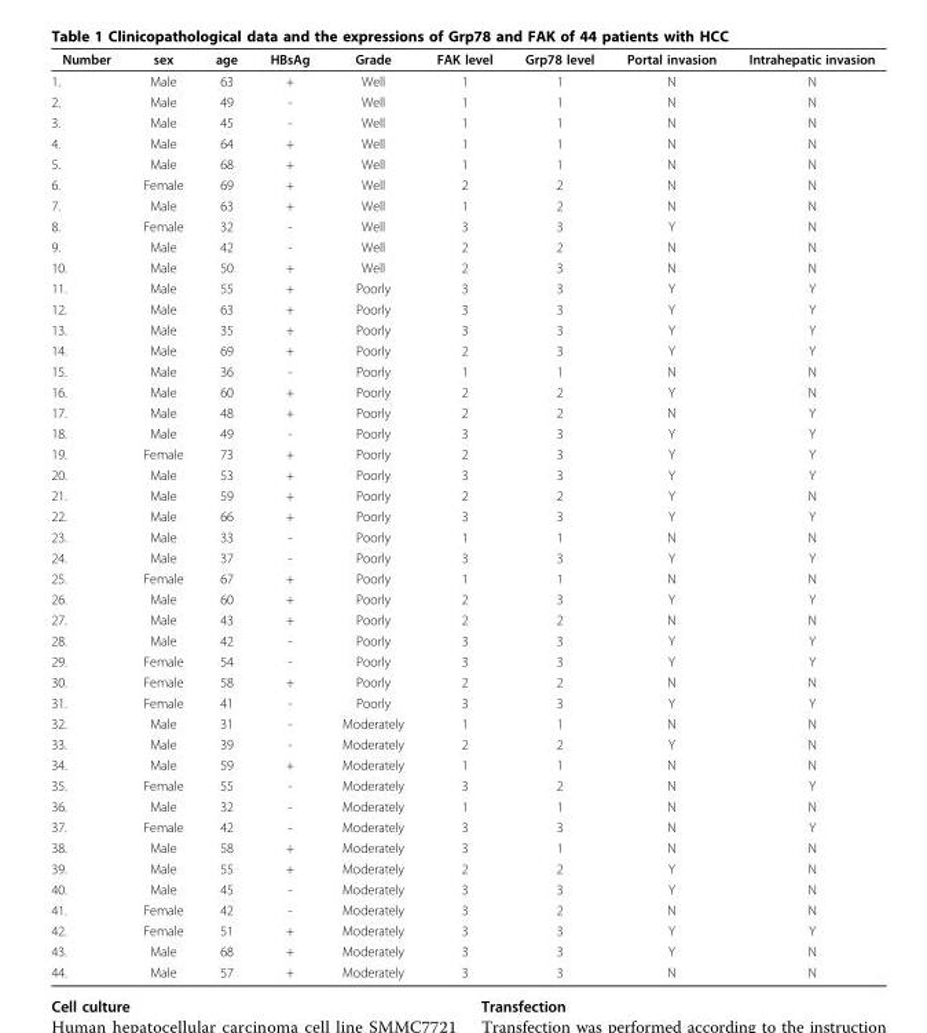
<table><thead><tr><td>Number</td><td>sex</td><td>age</td><td>HBsAg</td><td>Grade</td><td>FAK level</td><td>Grp78 level</td><td>Portal invasion</td><td>Intrahepatic invasion</td></tr></thead><tbody><tr><td>1.</td><td>Male</td><td>63</td><td>+</td><td>Well</td><td>1</td><td>1</td><td>N</td><td>N</td></tr><tr><td>2.</td><td>Male</td><td>49</td><td>-</td><td>Well</td><td>1</td><td>1</td><td>N</td><td>N</td></tr><tr><td>3.</td><td>Male</td><td>45</td><td>-</td><td>Well</td><td>1</td><td>1</td><td>N</td><td>N</td></tr><tr><td>4.</td><td>Male</td><td>64</td><td>+</td><td>Well</td><td>1</td><td>1</td><td>N</td><td>N</td></tr><tr><td>5.</td><td>Male</td><td>68</td><td>+</td><td>Well</td><td>1</td><td>1</td><td>N</td><td>N</td></tr><tr><td>6.</td><td>Female</td><td>69</td><td>+</td><td>Well</td><td>2</td><td>2</td><td>N</td><td>N</td></tr><tr><td>7.</td><td>Male</td><td>63</td><td>+</td><td>Well</td><td>1</td><td>2</td><td>N</td><td>N</td></tr><tr><td>8.</td><td>Female</td><td>32</td><td>-</td><td>Well</td><td>3</td><td>3</td><td>Y</td><td>N</td></tr><tr><td>9.</td><td>Male</td><td>42</td><td>-</td><td>Well</td><td>2</td><td>2</td><td>N</td><td>N</td></tr><tr><td>10.</td><td>Male</td><td>50</td><td>+</td><td>Well</td><td>2</td><td>3</td><td>N</td><td>N</td></tr><tr><td>11.</td><td>Male</td><td>55</td><td>+</td><td>Poorly</td><td>3</td><td>3</td><td>Y</td><td>Y</td></tr><tr><td>12.</td><td>Male</td><td>63</td><td>+</td><td>Poorly</td><td>3</td><td>3</td><td>Y</td><td>Y</td></tr><tr><td>13.</td><td>Male</td><td>35</td><td>+</td><td>Poorly</td><td>3</td><td>3</td><td>Y</td><td>Y</td></tr><tr><td>14.</td><td>Male</td><td>69</td><td>+</td><td>Poorly</td><td>2</td><td>3</td><td>Y</td><td>Y</td></tr><tr><td>15.</td><td>Male</td><td>36</td><td>-</td><td>Poorly</td><td>1</td><td>1</td><td>N</td><td>N</td></tr><tr><td>16.</td><td>Male</td><td>60</td><td>+</td><td>Poorly</td><td>2</td><td>2</td><td>Y</td><td>N</td></tr><tr><td>17.</td><td>Male</td><td>48</td><td>+</td><td>Poorly</td><td>2</td><td>2</td><td>N</td><td>Y</td></tr><tr><td>18.</td><td>Male</td><td>49</td><td>-</td><td>Poorly</td><td>3</td><td>3</td><td>Y</td><td>Y</td></tr><tr><td>19.</td><td>Female</td><td>73</td><td>+</td><td>Poorly</td><td>2</td><td>3</td><td>Y</td><td>Y</td></tr><tr><td>20.</td><td>Male</td><td>53</td><td>+</td><td>Poorly</td><td>3</td><td>3</td><td>Y</td><td>Y</td></tr><tr><td>21.</td><td>Male</td><td>59</td><td>+</td><td>Poorly</td><td>2</td><td>2</td><td>Y</td><td>N</td></tr><tr><td>22.</td><td>Male</td><td>66</td><td>+</td><td>Poorly</td><td>3</td><td>3</td><td>Y</td><td>Y</td></tr><tr><td>23.</td><td>Male</td><td>33</td><td>-</td><td>Poorly</td><td>1</td><td>1</td><td>N</td><td>N</td></tr><tr><td>24.</td><td>Male</td><td>37</td><td>-</td><td>Poorly</td><td>3</td><td>3</td><td>Y</td><td>Y</td></tr><tr><td>25.</td><td>Female</td><td>67</td><td>+</td><td>Poorly</td><td>1</td><td>1</td><td>N</td><td>N</td></tr><tr><td>26.</td><td>Male</td><td>60</td><td>+</td><td>Poorly</td><td>2</td><td>3</td><td>Y</td><td>Y</td></tr><tr><td>27.</td><td>Male</td><td>43</td><td>+</td><td>Poorly</td><td>2</td><td>2</td><td>N</td><td>N</td></tr><tr><td>28.</td><td>Male</td><td>42</td><td>-</td><td>Poorly</td><td>3</td><td>3</td><td>Y</td><td>Y</td></tr><tr><td>29.</td><td>Female</td><td>54</td><td>-</td><td>Poorly</td><td>3</td><td>3</td><td>Y</td><td>Y</td></tr><tr><td>30.</td><td>Female</td><td>58</td><td>+</td><td>Poorly</td><td>2</td><td>2</td><td>N</td><td>N</td></tr><tr><td>31.</td><td>Female</td><td>41</td><td>-</td><td>Poorly</td><td>3</td><td>3</td><td>Y</td><td>Y</td></tr><tr><td>32.</td><td>Male</td><td>31</td><td>-</td><td>Moderately</td><td>1</td><td>1</td><td>N</td><td>N</td></tr><tr><td>33.</td><td>Male</td><td>39</td><td>-</td><td>Moderately</td><td>2</td><td>2</td><td>Y</td><td>N</td></tr><tr><td>34.</td><td>Male</td><td>59</td><td>+</td><td>Moderately</td><td>1</td><td>1</td><td>N</td><td>N</td></tr><tr><td>35.</td><td>Female</td><td>55</td><td>-</td><td>Moderately</td><td>3</td><td>2</td><td>N</td><td>Y</td></tr><tr><td>36.</td><td>Male</td><td>32</td><td>-</td><td>Moderately</td><td>1</td><td>1</td><td>N</td><td>N</td></tr><tr><td>37.</td><td>Female</td><td>42</td><td>-</td><td>Moderately</td><td>3</td><td>3</td><td>N</td><td>Y</td></tr><tr><td>38.</td><td>Male</td><td>58</td><td>+</td><td>Moderately</td><td>3</td><td>1</td><td>N</td><td>N</td></tr><tr><td>39.</td><td>Male</td><td>55</td><td>+</td><td>Moderately</td><td>2</td><td>2</td><td>Y</td><td>N</td></tr><tr><td>40.</td><td>Male</td><td>45</td><td>-</td><td>Moderately</td><td>3</td><td>3</td><td>Y</td><td>N</td></tr><tr><td>41.</td><td>Female</td><td>42</td><td>-</td><td>Moderately</td><td>3</td><td>2</td><td>N</td><td>N</td></tr><tr><td>42.</td><td>Female</td><td>51</td><td>+</td><td>Moderately</td><td>3</td><td>3</td><td>Y</td><td>Y</td></tr><tr><td>43.</td><td>Male</td><td>68</td><td>+</td><td>Moderately</td><td>3</td><td>3</td><td>Y</td><td>N</td></tr><tr><td>44.</td><td>Male</td><td>57</td><td>+</td><td>Moderately</td><td>3</td><td>3</td><td>N</td><td>N</td></tr></tbody></table>